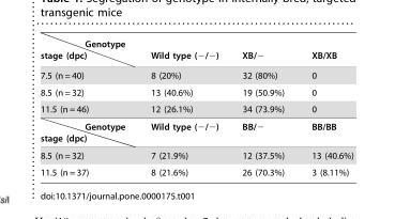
<table><thead><tr><td>Genotype stage (dpc)</td><td>Wild type (−/−)</td><td>XB/−</td><td>XB/XB</td></tr></thead><tbody><tr><td>7.5 (n = 40)</td><td>8 (20%)</td><td>32 (80%)</td><td>0</td></tr><tr><td>8.5 (n = 32)</td><td>13 (40.6%)</td><td>19 (50.9%)</td><td>0</td></tr><tr><td>11.5 (n = 46)</td><td>12 (26.1%)</td><td>34 (73.9%)</td><td>0</td></tr><tr><td>Genotype stage (dpc)</td><td>Wild type (−/−)</td><td>BB/−</td><td>BB/BB</td></tr><tr><td>8.5 (n = 32)</td><td>7 (21.9%)</td><td>12 (37.5%)</td><td>13 (40.6%)</td></tr><tr><td>11.5 (n = 37)</td><td>8 (21.6%)</td><td>26 (70.3%)</td><td>3 (8.11%)</td></tr></tbody></table>